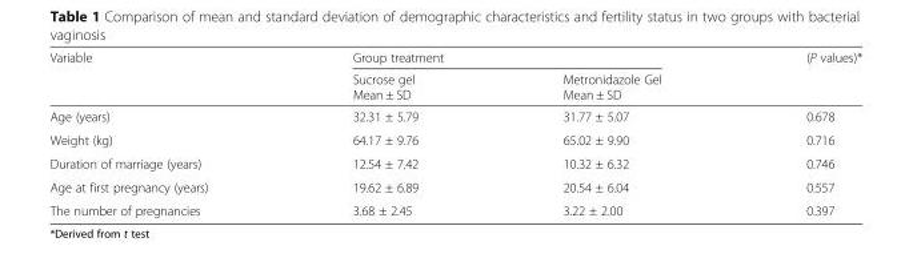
<table><thead><tr><td rowspan="2">Variable</td><td colspan="2">Group treatment</td><td rowspan="2">(P values)*</td></tr><tr><td>Sucrose gel Mean ± SD</td><td>Metronidazole Gel Mean ± SD</td></tr></thead><tbody><tr><td>Age (years)</td><td>32.31 ± 5.79</td><td>31.77 ± 5.07</td><td>0.678</td></tr><tr><td>Weight (kg)</td><td>64.17 ± 9.76</td><td>65.02 ± 9.90</td><td>0.716</td></tr><tr><td>Duration of marriage (years)</td><td>12.54 ± 7.42</td><td>10.32 ± 6.32</td><td>0.746</td></tr><tr><td>Age at first pregnancy (years)</td><td>19.62 ± 6.89</td><td>20.54 ± 6.04</td><td>0.557</td></tr><tr><td>The number of pregnancies</td><td>3.68 ± 2.45</td><td>3.22 ± 2.00</td><td>0.397</td></tr></tbody></table>